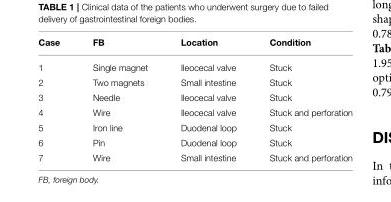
<table><thead><tr><td>Case</td><td>FB</td><td>Location</td><td>Condition</td></tr></thead><tbody><tr><td>1</td><td>Single magnet</td><td>Ileocecal valve</td><td>Stuck</td></tr><tr><td>2</td><td>Two magnets</td><td>Small intestine</td><td>Stuck</td></tr><tr><td>3</td><td>Needle</td><td>Ileocecal valve</td><td>Stuck</td></tr><tr><td>4</td><td>Wire</td><td>Ileocecal valve</td><td>Stuck and perforation</td></tr><tr><td>5</td><td>Iron line</td><td>Duodenal loop</td><td>Stuck</td></tr><tr><td>6</td><td>Pin</td><td>Duodenal loop</td><td>Stuck</td></tr><tr><td>7</td><td>Wire</td><td>Small intestine</td><td>Stuck and perforation</td></tr></tbody></table>